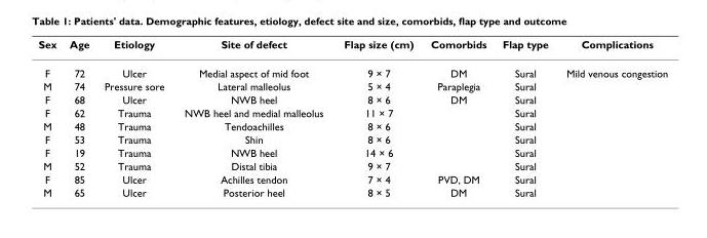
<table><thead><tr><td>Sex</td><td>Age</td><td>Etiology</td><td>Site of defect</td><td>Flap size (cm)</td><td>Comorbids</td><td>Flap type</td><td>Complications</td></tr></thead><tbody><tr><td>F</td><td>72</td><td>Ulcer</td><td>Medial aspect of mid foot</td><td>9 × 7</td><td>DM</td><td>Sural</td><td>Mild venous congestion</td></tr><tr><td>M</td><td>74</td><td>Pressure sore</td><td>Lateral malleolus</td><td>5 × 4</td><td>Paraplegia</td><td>Sural</td><td></td></tr><tr><td>F</td><td>68</td><td>Ulcer</td><td>NWB heel</td><td>8 × 6</td><td>DM</td><td>Sural</td><td></td></tr><tr><td>F</td><td>62</td><td>Trauma</td><td>NWB heel and medial malleolus</td><td>11 × 7</td><td></td><td>Sural</td><td></td></tr><tr><td>M</td><td>48</td><td>Trauma</td><td>Tendoachilles</td><td>8 × 6</td><td></td><td>Sural</td><td></td></tr><tr><td>F</td><td>53</td><td>Trauma</td><td>Shin</td><td>8 × 6</td><td></td><td>Sural</td><td></td></tr><tr><td>F</td><td>19</td><td>Trauma</td><td>NWB heel</td><td>14 × 6</td><td></td><td>Sural</td><td></td></tr><tr><td>M</td><td>52</td><td>Trauma</td><td>Distal tibia</td><td>9 × 7</td><td></td><td>Sural</td><td></td></tr><tr><td>F</td><td>85</td><td>Ulcer</td><td>Achilles tendon</td><td>7 × 4</td><td>PVD, DM</td><td>Sural</td><td></td></tr><tr><td>M</td><td>65</td><td>Ulcer</td><td>Posterior heel</td><td>8 × 5</td><td>DM</td><td>Sural</td><td></td></tr></tbody></table>